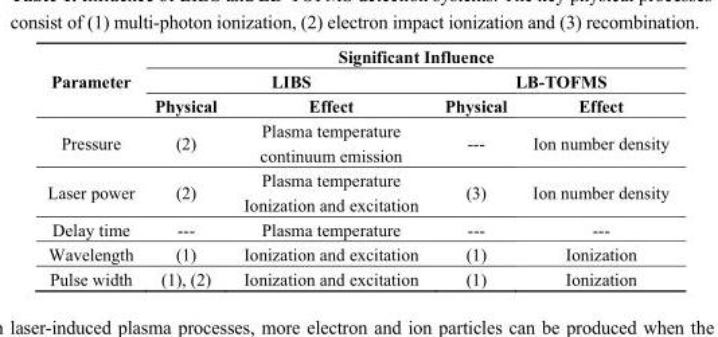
<table><thead><tr><td rowspan="3">Parameter</td><td colspan="4">Significant Influence</td></tr><tr><td colspan="2">LIBS</td><td colspan="2">LB-TOFMS</td></tr><tr><td>Physical</td><td>Effect</td><td>Physical</td><td>Effect</td></tr></thead><tbody><tr><td rowspan="2">Pressure</td><td rowspan="2">(2)</td><td>Plasma temperature</td><td rowspan="2">---</td><td rowspan="2">Ion number density</td></tr><tr><td>continuum emission</td></tr><tr><td rowspan="2">Laser power</td><td rowspan="2">(2)</td><td>Plasma temperature</td><td rowspan="2">(3)</td><td rowspan="2">Ion number density</td></tr><tr><td>Ionization and excitation</td></tr><tr><td>Delay time</td><td>---</td><td>Plasma temperature</td><td>---</td><td>---</td></tr><tr><td>Wavelength</td><td>(1)</td><td>Ionization and excitation</td><td>(1)</td><td>Ionization</td></tr><tr><td>Pulse width</td><td>(1), (2)</td><td>Ionization and excitation</td><td>(1)</td><td>Ionization</td></tr></tbody></table>